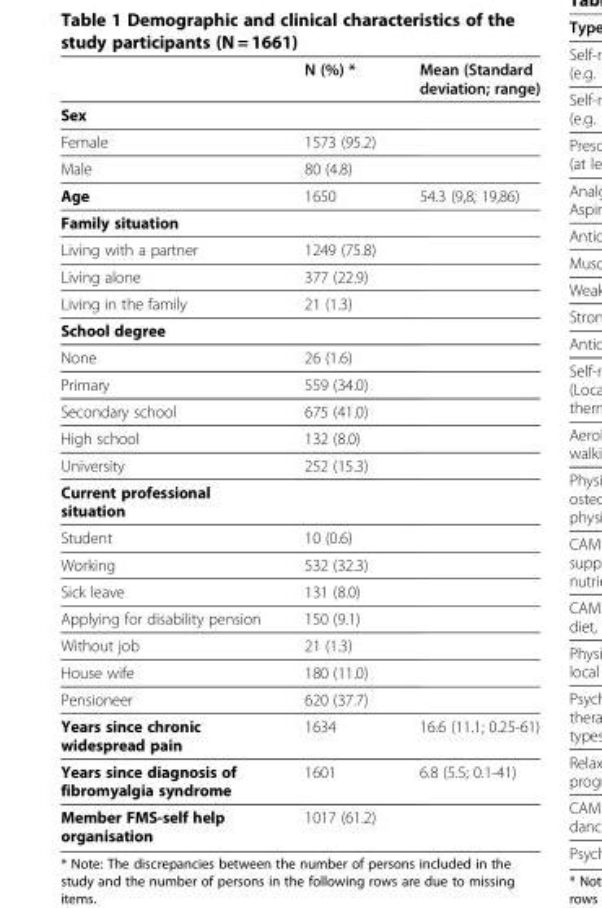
<table><thead><tr><td></td><td>N (%) *</td><td>Mean (Standard deviation; range)</td></tr></thead><tbody><tr><td colspan="3">Sex</td></tr><tr><td>Female</td><td>1573 (95.2)</td><td></td></tr><tr><td>Male</td><td>80 (4.8)</td><td></td></tr><tr><td>Age</td><td>1650</td><td>54.3 (9,8; 19,86)</td></tr><tr><td colspan="3">Family situation</td></tr><tr><td>Living with a partner</td><td>1249 (75.8)</td><td></td></tr><tr><td>Living alone</td><td>377 (22.9)</td><td></td></tr><tr><td>Living in the family</td><td>21 (1.3)</td><td></td></tr><tr><td colspan="3">School degree</td></tr><tr><td>None</td><td>26 (1.6)</td><td></td></tr><tr><td>Primary</td><td>559 (34.0)</td><td></td></tr><tr><td>Secondary school</td><td>675 (41.0)</td><td></td></tr><tr><td>High school</td><td>132 (8.0)</td><td></td></tr><tr><td>University</td><td>252 (15.3)</td><td></td></tr><tr><td colspan="3">Current professional situation</td></tr><tr><td>Student</td><td>10 (0.6)</td><td></td></tr><tr><td>Working</td><td>532 (32.3)</td><td></td></tr><tr><td>Sick leave</td><td>131 (8.0)</td><td></td></tr><tr><td>Applying for disability pension</td><td>150 (9.1)</td><td></td></tr><tr><td>Without job</td><td>21 (1.3)</td><td></td></tr><tr><td>House wife</td><td>180 (11.0)</td><td></td></tr><tr><td>Pensioneer</td><td>620 (37.7)</td><td></td></tr><tr><td>Years since chronic widespread pain</td><td>1634</td><td>16.6 (11.1; 0.25-61)</td></tr><tr><td>Years since diagnosis of fibromyalgia syndrome</td><td>1601</td><td>6.8 (5.5; 0.1-41)</td></tr><tr><td>Member FMS-self help organisation</td><td>1017 (61.2)</td><td></td></tr></tbody></table>